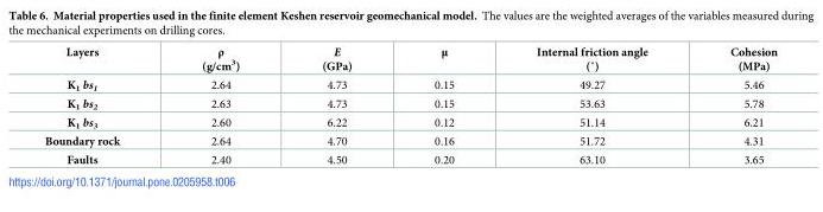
<table><thead><tr><td>Layers</td><td>ρ (g/cm<sup>3</sup>)</td><td>E (GPa)</td><td>μ</td><td>Internal friction angle (˚)</td><td>Cohesion (MPa)</td></tr></thead><tbody><tr><td>K<sub>1</sub> bs<sub>1</sub></td><td>2.64</td><td>4.73</td><td>0.15</td><td>49.27</td><td>5.46</td></tr><tr><td>K<sub>1</sub> bs<sub>2</sub></td><td>2.63</td><td>4.73</td><td>0.15</td><td>53.63</td><td>5.78</td></tr><tr><td>K<sub>1</sub> bs<sub>3</sub></td><td>2.60</td><td>6.22</td><td>0.12</td><td>51.14</td><td>6.21</td></tr><tr><td>Boundary rock</td><td>2.64</td><td>4.70</td><td>0.16</td><td>51.72</td><td>4.31</td></tr><tr><td>Faults</td><td>2.40</td><td>4.50</td><td>0.20</td><td>63.10</td><td>3.65</td></tr></tbody></table>